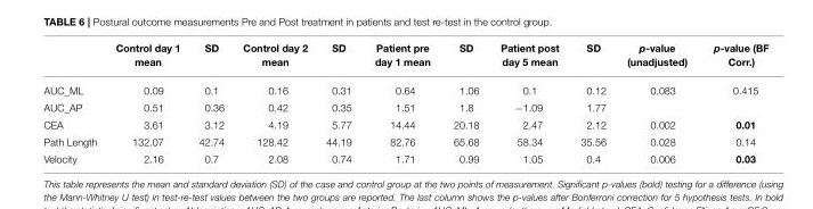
<table><thead><tr><td></td><td>Control day 1 mean</td><td>SD</td><td>Control day 2 mean</td><td>SD</td><td>Patient pre day 1 mean</td><td>SD</td><td>Patient post day 5 mean</td><td>SD</td><td>p-value (unadjusted)</td><td>p-value (BF Corr.)</td></tr></thead><tbody><tr><td>AUC_ML</td><td>0.09</td><td>0.1</td><td>0.16</td><td>0.31</td><td>0.64</td><td>1.06</td><td>0.1</td><td>0.12</td><td>0.083</td><td>0.415</td></tr><tr><td>AUC_AP</td><td>0.51</td><td>0.36</td><td>0.42</td><td>0.35</td><td>1.51</td><td>1.8</td><td>−1.09</td><td>1.77</td><td></td><td></td></tr><tr><td>CEA</td><td>3.61</td><td>3.12</td><td>4.19</td><td>5.77</td><td>14.44</td><td>20.18</td><td>2.47</td><td>2.12</td><td>0.002</td><td>0.01</td></tr><tr><td>Path Length</td><td>132.07</td><td>42.74</td><td>128.42</td><td>44.19</td><td>82.76</td><td>65.68</td><td>58.34</td><td>35.56</td><td>0.028</td><td>0.14</td></tr><tr><td>Velocity</td><td>2.16</td><td>0.7</td><td>2.08</td><td>0.74</td><td>1.71</td><td>0.99</td><td>1.05</td><td>0.4</td><td>0.006</td><td>0.03</td></tr></tbody></table>